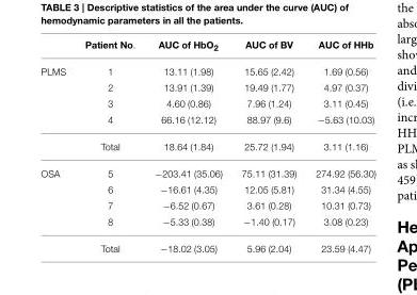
<table><thead><tr><td></td><td>Patient No.</td><td>AUC of HbO<sub>2</sub></td><td>AUC of BV</td><td>AUC of HHb</td></tr></thead><tbody><tr><td rowspan="5">PLMS</td><td>1</td><td>13.11 (1.98)</td><td>15.65 (2.42)</td><td>1.69 (0.56)</td></tr><tr><td>2</td><td>13.91 (1.39)</td><td>19.49 (1.77)</td><td>4.97 (0.37)</td></tr><tr><td>3</td><td>4.60 (0.86)</td><td>7.96 (1.24)</td><td>3.11 (0.45)</td></tr><tr><td>4</td><td>66.16 (12.12)</td><td>88.97 (9.6)</td><td>−5.63 (10.03)</td></tr><tr><td>Total</td><td>18.64 (1.84)</td><td>25.72 (1.94)</td><td>3.11 (1.16)</td></tr><tr><td rowspan="5">OSA</td><td>5</td><td>−203.41 (35.06)</td><td>75.11 (31.39)</td><td>274.92 (56.30)</td></tr><tr><td>6</td><td>−16.61 (4.35)</td><td>12.05 (5.81)</td><td>31.34 (4.55)</td></tr><tr><td>7</td><td>−6.52 (0.67)</td><td>3.61 (0.28)</td><td>10.31 (0.73)</td></tr><tr><td>8</td><td>−5.33 (0.38)</td><td>−1.40 (0.17)</td><td>3.08 (0.23)</td></tr><tr><td>Total</td><td>−18.02 (3.05)</td><td>5.96 (2.04)</td><td>23.59 (4.47)</td></tr></tbody></table>